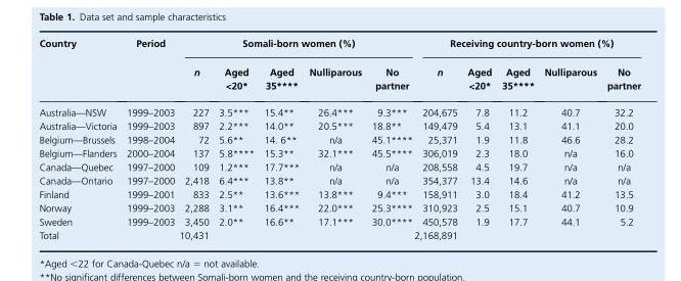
<table><thead><tr><td rowspan="2">Country</td><td rowspan="2">Period</td><td colspan="5">Somali-born women (%)</td><td colspan="5">Receiving country-born women (%)</td></tr><tr><td>n</td><td>Aged &lt;20*</td><td>Aged 35****</td><td>Nulliparous</td><td>No partner</td><td>n</td><td>Aged &lt;20*</td><td>Aged 35****</td><td>Nulliparous</td><td>No partner</td></tr></thead><tbody><tr><td>Australia—NSW</td><td>1999–2003</td><td>227</td><td>3.5***</td><td>15.4**</td><td>26.4***</td><td>9.3***</td><td>204,675</td><td>7.8</td><td>11.2</td><td>40.7</td><td>32.2</td></tr><tr><td>Australia—Victoria</td><td>1999–2003</td><td>897</td><td>2.2***</td><td>14.0**</td><td>20.5***</td><td>18.8**</td><td>149,479</td><td>5.4</td><td>13.1</td><td>41.1</td><td>20.0</td></tr><tr><td>Belgium—Brussels</td><td>1998–2004</td><td>72</td><td>5.6**</td><td>14. 6**</td><td>n/a</td><td>45.1****</td><td>25,371</td><td>1.9</td><td>11.8</td><td>46.6</td><td>28.2</td></tr><tr><td>Belgium—Flanders</td><td>2000–2004</td><td>137</td><td>5.8****</td><td>15.3**</td><td>32.1***</td><td>45.5****</td><td>306,019</td><td>2.3</td><td>18.0</td><td>n/a</td><td>16.0</td></tr><tr><td>Canada—Quebec</td><td>1997–2000</td><td>109</td><td>1.2***</td><td>17.7***</td><td>n/a</td><td>n/a</td><td>208,558</td><td>4.5</td><td>19.7</td><td>n/a</td><td>n/a</td></tr><tr><td>Canada—Ontario</td><td>1997–2000</td><td>2,418</td><td>6.4***</td><td>13.8**</td><td>n/a</td><td>n/a</td><td>354,377</td><td>13.4</td><td>14.6</td><td>n/a</td><td>n/a</td></tr><tr><td>Finland</td><td>1999–2001</td><td>833</td><td>2.5**</td><td>13.6***</td><td>13.8***</td><td>9.4***</td><td>158,911</td><td>3.0</td><td>18.4</td><td>41.2</td><td>13.5</td></tr><tr><td>Norway</td><td>1999–2003</td><td>2,288</td><td>3.1**</td><td>16.4***</td><td>22.0***</td><td>25.3****</td><td>310,923</td><td>2.5</td><td>15.1</td><td>40.7</td><td>10.9</td></tr><tr><td>Sweden</td><td>1999–2003</td><td>3,450</td><td>2.0**</td><td>16.6**</td><td>17.1***</td><td>30.0****</td><td>450,578</td><td>1.9</td><td>17.7</td><td>44.1</td><td>5.2</td></tr><tr><td>Total</td><td></td><td>10,431</td><td></td><td></td><td></td><td></td><td>2,168,891</td><td></td><td></td><td></td><td></td></tr></tbody></table>